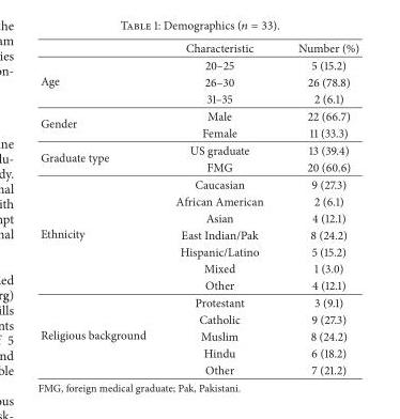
<table><thead><tr><td></td><td>Characteristic</td><td>Number (%)</td></tr></thead><tbody><tr><td rowspan="3">Age</td><td>20–25</td><td>5 (15.2)</td></tr><tr><td>26–30</td><td>26 (78.8)</td></tr><tr><td>31–35</td><td>2 (6.1)</td></tr><tr><td rowspan="2">Gender</td><td>Male</td><td>22 (66.7)</td></tr><tr><td>Female</td><td>11 (33.3)</td></tr><tr><td rowspan="2">Graduate type</td><td>US graduate</td><td>13 (39.4)</td></tr><tr><td>FMG</td><td>20 (60.6)</td></tr><tr><td rowspan="7">Ethnicity</td><td>Caucasian</td><td>9 (27.3)</td></tr><tr><td>African American</td><td>2 (6.1)</td></tr><tr><td>Asian</td><td>4 (12.1)</td></tr><tr><td>East Indian/Pak</td><td>8 (24.2)</td></tr><tr><td>Hispanic/Latino</td><td>5 (15.2)</td></tr><tr><td>Mixed</td><td>1 (3.0)</td></tr><tr><td>Other</td><td>4 (12.1)</td></tr><tr><td rowspan="5">Religious background</td><td>Protestant</td><td>3 (9.1)</td></tr><tr><td>Catholic</td><td>9 (27.3)</td></tr><tr><td>Muslim</td><td>8 (24.2)</td></tr><tr><td>Hindu</td><td>6 (18.2)</td></tr><tr><td>Other</td><td>7 (21.2)</td></tr></tbody></table>